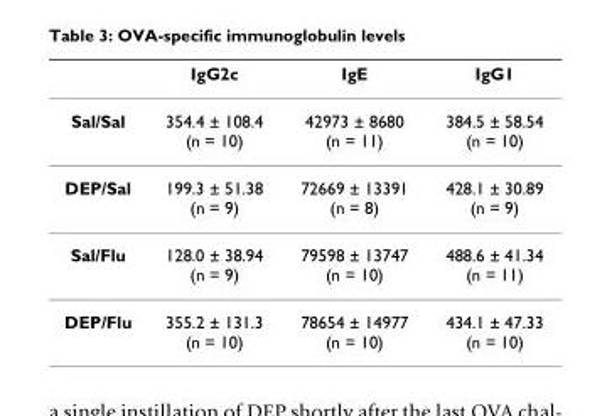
<table><thead><tr><td></td><td>IgG2c</td><td>IgE</td><td>IgG1</td></tr></thead><tbody><tr><td>Sal/Sal</td><td>354.4 ± 108.4 (n = 10)</td><td>42973 ± 8680 (n = 11)</td><td>384.5 ± 58.54 (n = 10)</td></tr><tr><td>DEP/Sal</td><td>199.3 ± 51.38 (n = 9)</td><td>72669 ± 13391 (n = 8)</td><td>428.1 ± 30.89 (n = 9)</td></tr><tr><td>Sal/Flu</td><td>128.0 ± 38.94 (n = 9)</td><td>79598 ± 13747 (n = 10)</td><td>488.6 ± 41.34 (n = 11)</td></tr><tr><td>DEP/Flu</td><td>355.2 ± 131.3 (n = 10)</td><td>78654 ± 14977 (n = 10)</td><td>434.1 ± 47.33 (n = 10)</td></tr></tbody></table>